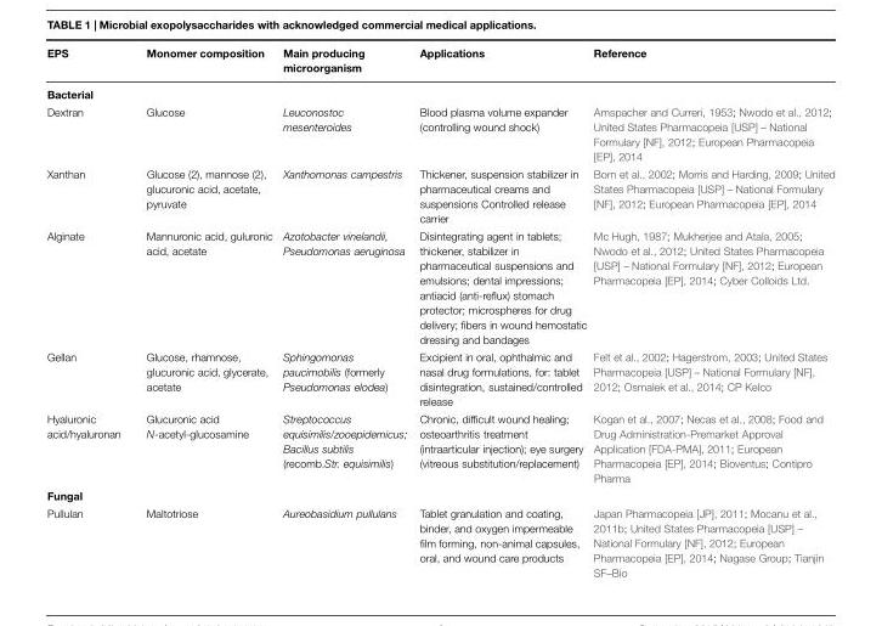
<table><thead><tr><td>EPS</td><td>Monomer composition</td><td>Main producing microorganism</td><td>Applications</td><td>Reference</td></tr></thead><tbody><tr><td colspan="5">Bacterial</td></tr><tr><td>Dextran</td><td>Glucose</td><td>Leuconostoc mesenteroides</td><td>Blood plasma volume expander (controlling wound shock)</td><td>Amspacher and Curreri, 1953; Nwodo et al., 2012; United States Pharmacopeia [USP] – National Formulary [NF], 2012; European Pharmacopeia [EP], 2014</td></tr><tr><td>Xanthan</td><td>Glucose (2), mannose (2), glucuronic acid, acetate, pyruvate</td><td>Xanthomonas campestris</td><td>Thickener, suspension stabilizer in pharmaceutical creams and suspensions Controlled release carrier</td><td>Born et al., 2002; Morris and Harding, 2009; United States Pharmacopeia [USP] – National Formulary [NF], 2012; European Pharmacopeia [EP], 2014</td></tr><tr><td>Alginate</td><td>Mannuronic acid, guluronic acid, acetate</td><td>Azotobacter vinelandii, Pseudomonas aeruginosa</td><td>Disintegrating agent in tablets; thickener, stabilizer in pharmaceutical suspensions and emulsions; dental impressions; antiacid (anti-reflux) stomach protector; microspheres for drug delivery; fibers in wound hemostatic dressing and bandages</td><td>Mc Hugh, 1987; Mukherjee and Atala, 2005; Nwodo et al., 2012; United States Pharmacopeia [USP] – National Formulary [NF], 2012; European Pharmacopeia [EP], 2014; Cyber Colloids Ltd.</td></tr><tr><td>Gellan</td><td>Glucose, rhamnose, glucuronic acid, glycerate, acetate</td><td>Sphingomonas paucimobilis (formerly Pseudomonas elodea)</td><td>Excipient in oral, ophthalmic and nasal drug formulations, for: tablet disintegration, sustained/controlled release</td><td>Felt et al., 2002; Hagerstrom, 2003; United States Pharmacopeia [USP] – National Formulary [NF], 2012; Osmalek et al., 2014; CP Kelco</td></tr><tr><td>Hyaluronic acid/hyaluronan</td><td>Glucuronic acid N-acetyl-glucosamine</td><td>Streptococcus equisimilis/zooepidemicus; Bacillus subtilis (recomb.Str. equisimilis)</td><td>Chronic, difficult wound healing; osteoarthritis treatment (intraarticular injection); eye surgery (vitreous substitution/replacement)</td><td>Kogan et al., 2007; Necas et al., 2008; Food and Drug Administration-Premarket Approval Application [FDA-PMA], 2011; European Pharmacopeia [EP], 2014; Bioventus; Contipro Pharma</td></tr><tr><td colspan="5">Fungal</td></tr><tr><td>Pullulan</td><td>Maltotriose</td><td>Aureobasidium pullulans</td><td>Tablet granulation and coating, binder, and oxygen impermeable film forming, non-animal capsules, oral, and wound care products</td><td>Japan Pharmacopeia [JP], 2011; Mocanu et al., 2011b; United States Pharmacopeia [USP] – National Formulary [NF], 2012; European Pharmacopeia [EP], 2014; Nagase Group; Tianjin SF–Bio</td></tr></tbody></table>